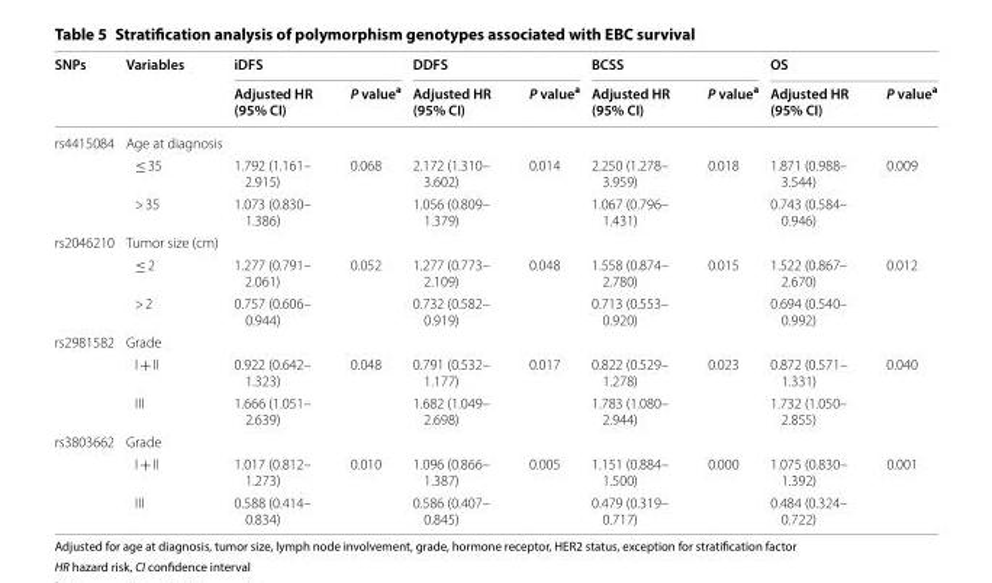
<table><thead><tr><td rowspan="2">SNPs</td><td rowspan="2">Variables</td><td colspan="2">iDFS</td><td colspan="2">DDFS</td><td colspan="2">BCSS</td><td colspan="2">OS</td></tr><tr><td>Adjusted HR (95% CI)</td><td>P value<sup>a</sup></td><td>Adjusted HR (95% CI)</td><td>P value<sup>a</sup></td><td>Adjusted HR (95% CI)</td><td>P value<sup>a</sup></td><td>Adjusted HR (95% CI)</td><td>P value<sup>a</sup></td></tr></thead><tbody><tr><td rowspan="3">rs4415084</td><td>Age at diagnosis</td><td></td><td></td><td></td><td></td><td></td><td></td><td></td><td></td></tr><tr><td>≤ 35</td><td>1.792 (1.161– 2.915)</td><td>0.068</td><td>2.172 (1.310– 3.602)</td><td>0.014</td><td>2.250 (1.278– 3.959)</td><td>0.018</td><td>1.871 (0.988– 3.544)</td><td>0.009</td></tr><tr><td>&gt; 35</td><td>1.073 (0.830– 1.386)</td><td></td><td>1.056 (0.809– 1.379)</td><td></td><td>1.067 (0.796– 1.431)</td><td></td><td>0.743 (0.584– 0.946)</td><td></td></tr><tr><td rowspan="3">rs2046210</td><td>Tumor size (cm)</td><td></td><td></td><td></td><td></td><td></td><td></td><td></td><td></td></tr><tr><td>≤ 2</td><td>1.277 (0.791– 2.061)</td><td>0.052</td><td>1.277 (0.773– 2.109)</td><td>0.048</td><td>1.558 (0.874– 2.780)</td><td>0.015</td><td>1.522 (0.867– 2.670)</td><td>0.012</td></tr><tr><td>&gt; 2</td><td>0.757 (0.606– 0.944)</td><td></td><td>0.732 (0.582– 0.919)</td><td></td><td>0.713 (0.553– 0.920)</td><td></td><td>0.694 (0.540– 0.992)</td><td></td></tr><tr><td rowspan="3">rs2981582</td><td>Grade</td><td></td><td></td><td></td><td></td><td></td><td></td><td></td><td></td></tr><tr><td>I + II</td><td>0.922 (0.642– 1.323)</td><td>0.048</td><td>0.791 (0.532– 1.177)</td><td>0.017</td><td>0.822 (0.529– 1.278)</td><td>0.023</td><td>0.872 (0.571– 1.331)</td><td>0.040</td></tr><tr><td>III</td><td>1.666 (1.051– 2.639)</td><td></td><td>1.682 (1.049– 2.698)</td><td></td><td>1.783 (1.080– 2.944)</td><td></td><td>1.732 (1.050– 2.855)</td><td></td></tr><tr><td rowspan="3">rs3803662</td><td>Grade</td><td></td><td></td><td></td><td></td><td></td><td></td><td></td><td></td></tr><tr><td>I + II</td><td>1.017 (0.812– 1.273)</td><td>0.010</td><td>1.096 (0.866– 1.387)</td><td>0.005</td><td>1.151 (0.884– 1.500)</td><td>0.000</td><td>1.075 (0.830– 1.392)</td><td>0.001</td></tr><tr><td>III</td><td>0.588 (0.414– 0.834)</td><td></td><td>0.586 (0.407– 0.845)</td><td></td><td>0.479 (0.319– 0.717)</td><td></td><td>0.484 (0.324– 0.722)</td><td></td></tr></tbody></table>